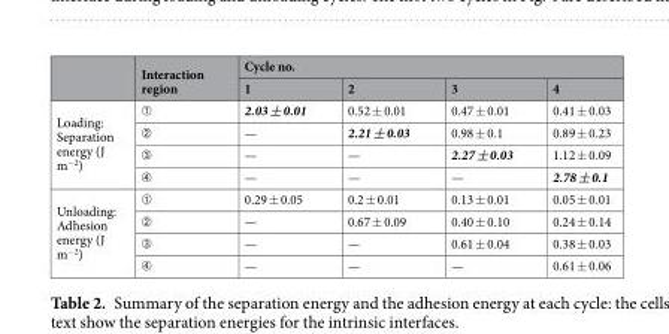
<table><thead><tr><td rowspan="2"></td><td rowspan="2">Interaction region</td><td colspan="4">Cycle no.</td></tr><tr><td>1</td><td>2</td><td>3</td><td>4</td></tr></thead><tbody><tr><td rowspan="4">Loading: Separation energy (J m<sup>−2</sup>)</td><td>➀</td><td>2.03 ± 0.01</td><td>0.52 ± 0.01</td><td>0.47 ± 0.01</td><td>0.41 ± 0.03</td></tr><tr><td>➁</td><td>—</td><td>2.21 ± 0.03</td><td>0.98 ± 0.1</td><td>0.89 ± 0.23</td></tr><tr><td>➂</td><td>—</td><td>—</td><td>2.27 ± 0.03</td><td>1.12 ± 0.09</td></tr><tr><td>➃</td><td>—</td><td>—</td><td>—</td><td>2.78 ± 0.1</td></tr><tr><td rowspan="4">Unloading: Adhesion energy (J m<sup>−2</sup>)</td><td>➀</td><td>0.29 ± 0.05</td><td>0.2 ± 0.01</td><td>0.13 ± 0.01</td><td>0.05 ± 0.01</td></tr><tr><td>➁</td><td>—</td><td>0.67 ± 0.09</td><td>0.40 ± 0.10</td><td>0.24 ± 0.14</td></tr><tr><td>➂</td><td>—</td><td>—</td><td>0.61 ± 0.04</td><td>0.38 ± 0.03</td></tr><tr><td>➃</td><td>—</td><td>—</td><td>—</td><td>0.61 ± 0.06</td></tr></tbody></table>